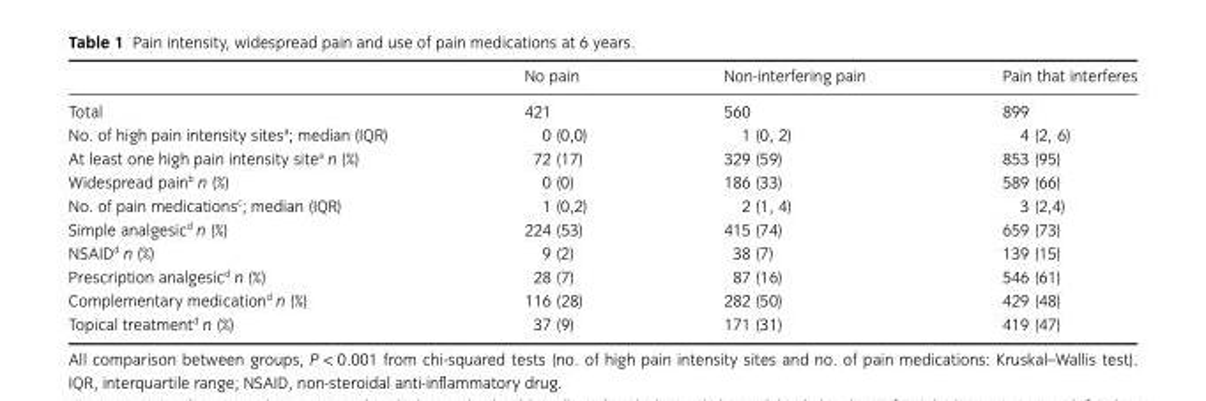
<table><thead><tr><td></td><td>No pain</td><td>Non-interfering pain</td><td>Pain that interferes</td></tr></thead><tbody><tr><td>Total</td><td>421</td><td>560</td><td>899</td></tr><tr><td>No. of high pain intensity sites<sup>a</sup>; median (IQR)</td><td>0 (0,0)</td><td>1 (0, 2)</td><td>4 (2, 6)</td></tr><tr><td>At least one high pain intensity site<sup>a</sup> n (%)</td><td>72 (17)</td><td>329 (59)</td><td>853 (95)</td></tr><tr><td>Widespread pain<sup>b</sup> n (%)</td><td>0 (0)</td><td>186 (33)</td><td>589 (66)</td></tr><tr><td>No. of pain medications<sup>c</sup>; median (IQR)</td><td>1 (0,2)</td><td>2 (1, 4)</td><td>3 (2,4)</td></tr><tr><td>Simple analgesic<sup>d</sup> n (%)</td><td>224 (53)</td><td>415 (74)</td><td>659 (73)</td></tr><tr><td>NSAID<sup>d</sup> n (%)</td><td>9 (2)</td><td>38 (7)</td><td>139 (15)</td></tr><tr><td>Prescription analgesic<sup>d</sup> n (%)</td><td>28 (7)</td><td>87 (16)</td><td>546 (61)</td></tr><tr><td>Complementary medication<sup>d</sup> n (%)</td><td>116 (28)</td><td>282 (50)</td><td>429 (48)</td></tr><tr><td>Topical treatment<sup>d</sup> n (%)</td><td>37 (9)</td><td>171 (31)</td><td>419 (47)</td></tr></tbody></table>